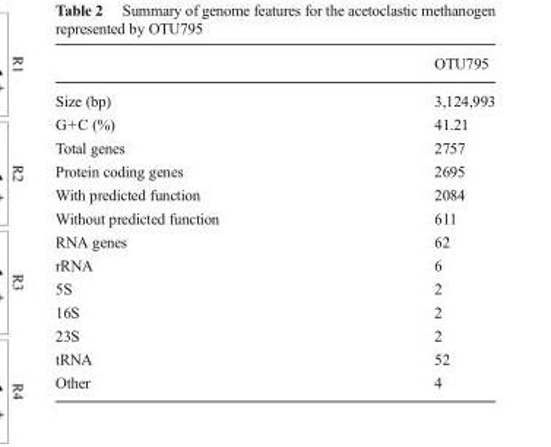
<table><thead><tr><td></td><td>OTU795</td></tr></thead><tbody><tr><td>Size (bp)</td><td>3,124,993</td></tr><tr><td>G+C (%)</td><td>41.21</td></tr><tr><td>Total genes</td><td>2757</td></tr><tr><td>Protein coding genes</td><td>2695</td></tr><tr><td>With predicted function</td><td>2084</td></tr><tr><td>Without predicted function</td><td>611</td></tr><tr><td>RNA genes</td><td>62</td></tr><tr><td>rRNA</td><td>6</td></tr><tr><td>5S</td><td>2</td></tr><tr><td>16S</td><td>2</td></tr><tr><td>23S</td><td>2</td></tr><tr><td>tRNA</td><td>52</td></tr><tr><td>Other</td><td>4</td></tr></tbody></table>